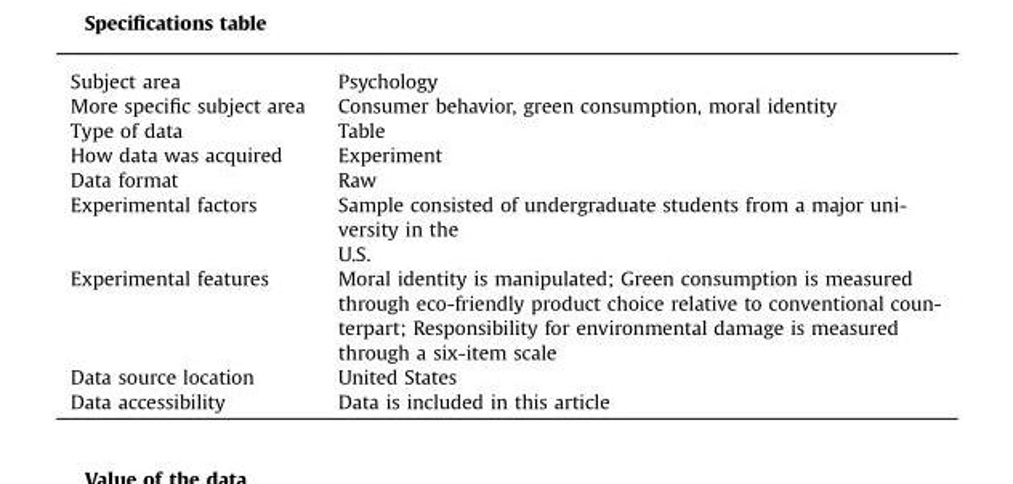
<table><tbody><tr><td>Subject area</td><td>Psychology</td></tr><tr><td>More specific subject area</td><td>Consumer behavior, green consumption, moral identity</td></tr><tr><td>Type of data</td><td>Table</td></tr><tr><td>How data was acquired</td><td>Experiment</td></tr><tr><td>Data format</td><td>Raw</td></tr><tr><td>Experimental factors</td><td>Sample consisted of undergraduate students from a major uni- versity in the U.S.</td></tr><tr><td>Experimental features</td><td>Moral identity is manipulated; Green consumption is measured through eco-friendly product choice relative to conventional coun- terpart; Responsibility for environmental damage is measured through a six-item scale</td></tr><tr><td>Data source location</td><td>United States</td></tr><tr><td>Data accessibility</td><td>Data is included in this article</td></tr></tbody></table>